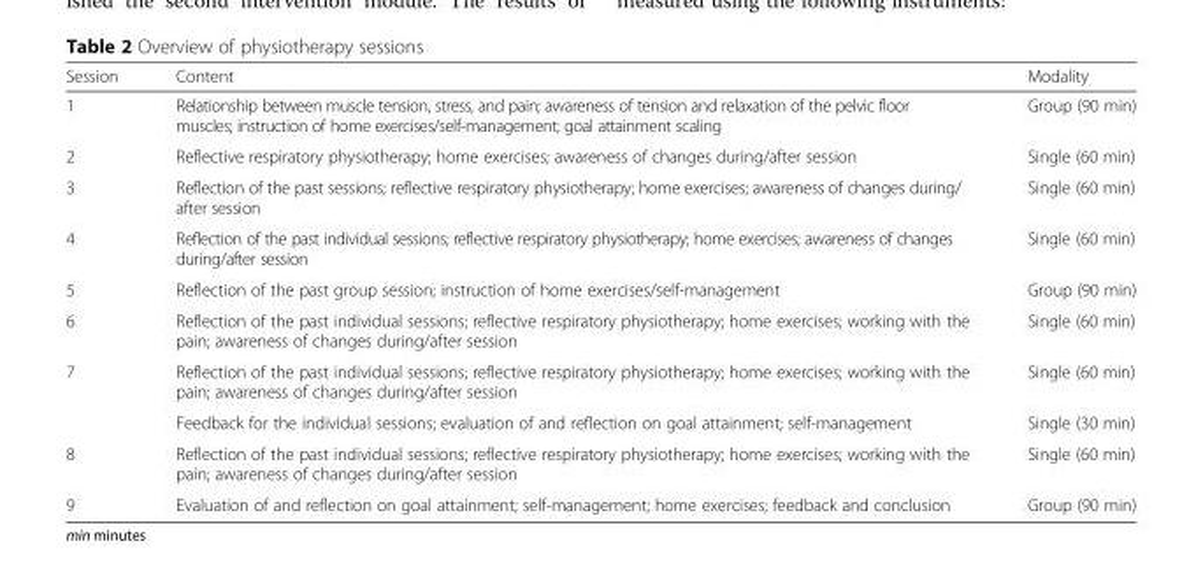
<table><thead><tr><td>Session</td><td>Content</td><td>Modality</td></tr></thead><tbody><tr><td>1</td><td>Relationship between muscle tension, stress, and pain; awareness of tension and relaxation of the pelvic floor muscles; instruction of home exercises/self-management; goal attainment scaling</td><td>Group (90 min)</td></tr><tr><td>2</td><td>Reflective respiratory physiotherapy; home exercises; awareness of changes during/after session</td><td>Single (60 min)</td></tr><tr><td>3</td><td>Reflection of the past sessions; reflective respiratory physiotherapy; home exercises; awareness of changes during/ after session</td><td>Single (60 min)</td></tr><tr><td>4</td><td>Reflection of the past individual sessions; reflective respiratory physiotherapy; home exercises; awareness of changes during/after session</td><td>Single (60 min)</td></tr><tr><td>5</td><td>Reflection of the past group session; instruction of home exercises/self-management</td><td>Group (90 min)</td></tr><tr><td>6</td><td>Reflection of the past individual sessions; reflective respiratory physiotherapy; home exercises; working with the pain; awareness of changes during/after session</td><td>Single (60 min)</td></tr><tr><td rowspan="2">7</td><td>Reflection of the past individual sessions; reflective respiratory physiotherapy; home exercises; working with the pain; awareness of changes during/after session</td><td>Single (60 min)</td></tr><tr><td>Feedback for the individual sessions; evaluation of and reflection on goal attainment; self-management</td><td>Single (30 min)</td></tr><tr><td>8</td><td>Reflection of the past individual sessions; reflective respiratory physiotherapy; home exercises; working with the pain; awareness of changes during/after session</td><td>Single (60 min)</td></tr><tr><td>9</td><td>Evaluation of and reflection on goal attainment; self-management; home exercises; feedback and conclusion</td><td>Group (90 min)</td></tr></tbody></table>